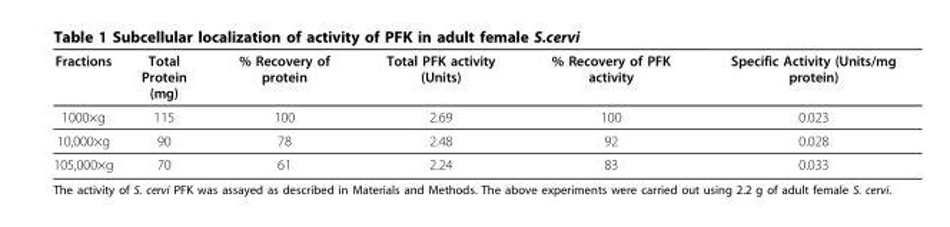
<table><thead><tr><td>Fractions</td><td>Total Protein (mg)</td><td>% Recovery of protein</td><td>Total PFK activity (Units)</td><td>% Recovery of PFK activity</td><td>Specific Activity (Units/mg protein)</td></tr></thead><tbody><tr><td>1000×g</td><td>115</td><td>100</td><td>2.69</td><td>100</td><td>0.023</td></tr><tr><td>10,000×g</td><td>90</td><td>78</td><td>2.48</td><td>92</td><td>0.028</td></tr><tr><td>105,000×g</td><td>70</td><td>61</td><td>2.24</td><td>83</td><td>0.033</td></tr></tbody></table>